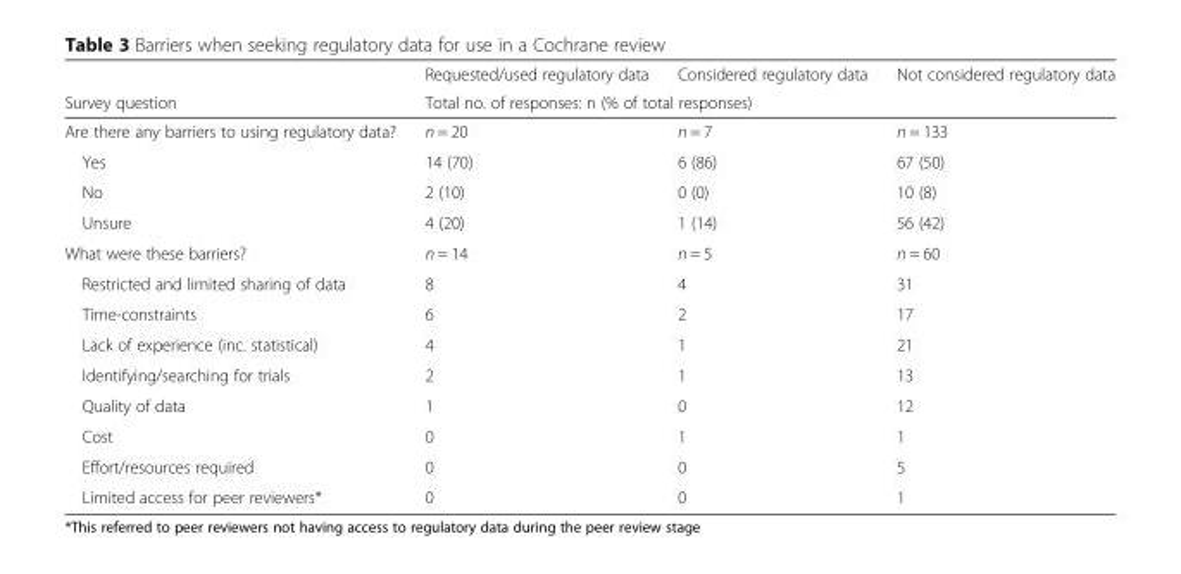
<table><thead><tr><td rowspan="2">Survey question</td><td>Requested/used regulatory data</td><td>Considered regulatory data</td><td>Not considered regulatory data</td></tr><tr><td colspan="3">Total no. of responses: n (% of total responses)</td></tr></thead><tbody><tr><td>Are there any barriers to using regulatory data?</td><td>n = 20</td><td>n = 7</td><td>n = 133</td></tr><tr><td>Yes</td><td>14 (70)</td><td>6 (86)</td><td>67 (50)</td></tr><tr><td>No</td><td>2 (10)</td><td>0 (0)</td><td>10 (8)</td></tr><tr><td>Unsure</td><td>4 (20)</td><td>1 (14)</td><td>56 (42)</td></tr><tr><td>What were these barriers?</td><td>n = 14</td><td>n = 5</td><td>n = 60</td></tr><tr><td>Restricted and limited sharing of data</td><td>8</td><td>4</td><td>31</td></tr><tr><td>Time-constraints</td><td>6</td><td>2</td><td>17</td></tr><tr><td>Lack of experience (inc. statistical)</td><td>4</td><td>1</td><td>21</td></tr><tr><td>Identifying/searching for trials</td><td>2</td><td>1</td><td>13</td></tr><tr><td>Quality of data</td><td>1</td><td>0</td><td>12</td></tr><tr><td>Cost</td><td>0</td><td>1</td><td>1</td></tr><tr><td>Effort/resources required</td><td>0</td><td>0</td><td>5</td></tr><tr><td>Limited access for peer reviewers*</td><td>0</td><td>0</td><td>1</td></tr></tbody></table>